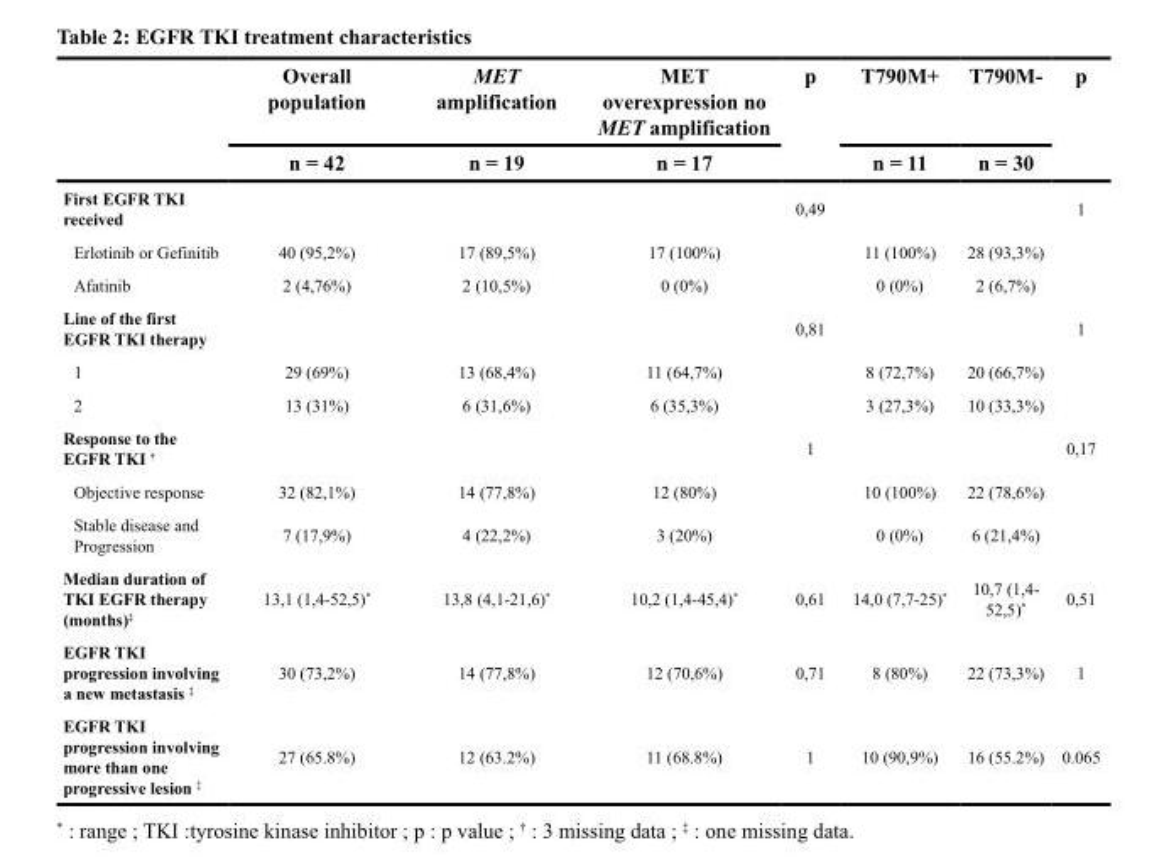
<table><thead><tr><td rowspan="2"></td><td rowspan="2">Overall population n = 42</td><td rowspan="2">MET amplification n = 19</td><td rowspan="2">MET overexpression no MET amplification n = 17</td><td rowspan="2">p</td><td rowspan="2">T790M+ n = 11</td><td rowspan="2">T790M- n = 30</td><td rowspan="2">p</td></tr><tr></tr></thead><tbody><tr><td>First EGFR TKI received</td><td></td><td></td><td></td><td>0,49</td><td></td><td></td><td>1</td></tr><tr><td>Erlotinib or Gefinitib</td><td>40 (95,2%)</td><td>17 (89,5%)</td><td>17 (100%)</td><td></td><td>11 (100%)</td><td>28 (93,3%)</td><td></td></tr><tr><td>Afatinib</td><td>2 (4,76%)</td><td>2 (10,5%)</td><td>0 (0%)</td><td></td><td>0 (0%)</td><td>2 (6,7%)</td><td></td></tr><tr><td>Line of the first EGFR TKI therapy</td><td></td><td></td><td></td><td>0,81</td><td></td><td></td><td>1</td></tr><tr><td>1</td><td>29 (69%)</td><td>13 (68,4%)</td><td>11 (64,7%)</td><td></td><td>8 (72,7%)</td><td>20 (66,7%)</td><td></td></tr><tr><td>2</td><td>13 (31%)</td><td>6 (31,6%)</td><td>6 (35,3%)</td><td></td><td>3 (27,3%)</td><td>10 (33,3%)</td><td></td></tr><tr><td>Response to the EGFR TKI <sup>†</sup></td><td></td><td></td><td></td><td>1</td><td></td><td></td><td>0,17</td></tr><tr><td>Objective response</td><td>32 (82,1%)</td><td>14 (77,8%)</td><td>12 (80%)</td><td></td><td>10 (100%)</td><td>22 (78,6%)</td><td></td></tr><tr><td>Stable disease and Progression</td><td>7 (17,9%)</td><td>4 (22,2%)</td><td>3 (20%)</td><td></td><td>0 (0%)</td><td>6 (21,4%)</td><td></td></tr><tr><td>Median duration of TKI EGFR therapy (months)<sup>‡</sup></td><td>13,1 (1,4-52,5)*</td><td>13,8 (4,1-21,6)*</td><td>10,2 (1,4-45,4)*</td><td>0,61</td><td>14,0 (7,7-25)*</td><td>10,7 (1,4- 52,5)*</td><td>0,51</td></tr><tr><td>EGFR TKI progression involving a new metastasis <sup>‡</sup></td><td>30 (73,2%)</td><td>14 (77,8%)</td><td>12 (70,6%)</td><td>0,71</td><td>8 (80%)</td><td>22 (73,3%)</td><td>1</td></tr><tr><td>EGFR TKI progression involving more than one progressive lesion <sup>‡</sup></td><td>27 (65.8%)</td><td>12 (63.2%)</td><td>11 (68.8%)</td><td>1</td><td>10 (90,9%)</td><td>16 (55.2%)</td><td>0.065</td></tr></tbody></table>